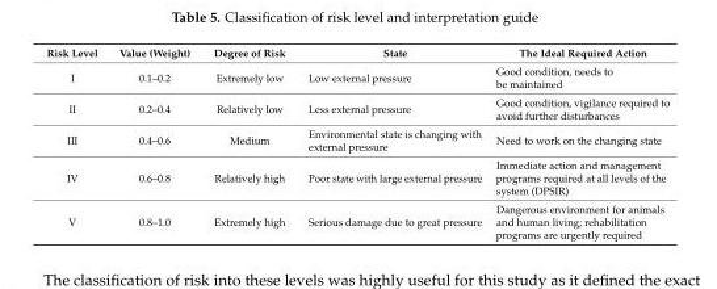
<table><thead><tr><td>Risk Level</td><td>Value (Weight)</td><td>Degree of Risk</td><td>State</td><td>The Ideal Required Action</td></tr></thead><tbody><tr><td>I</td><td>0.1–0.2</td><td>Extremely low</td><td>Low external pressure</td><td>Good condition, needs to be maintained</td></tr><tr><td>II</td><td>0.2–0.4</td><td>Relatively low</td><td>Less external pressure</td><td>Good condition, vigilance required to avoid further disturbances</td></tr><tr><td>III</td><td>0.4–0.6</td><td>Medium</td><td>Environmental state is changing with external pressure</td><td>Need to work on the changing state</td></tr><tr><td>IV</td><td>0.6–0.8</td><td>Relatively high</td><td>Poor state with large external pressure</td><td>Immediate action and management programs required at all levels of the system (DPSIR)</td></tr><tr><td>V</td><td>0.8–1.0</td><td>Extremely high</td><td>Serious damage due to great pressure</td><td>Dangerous environment for animals and human living; rehabilitation programs are urgently required</td></tr></tbody></table>